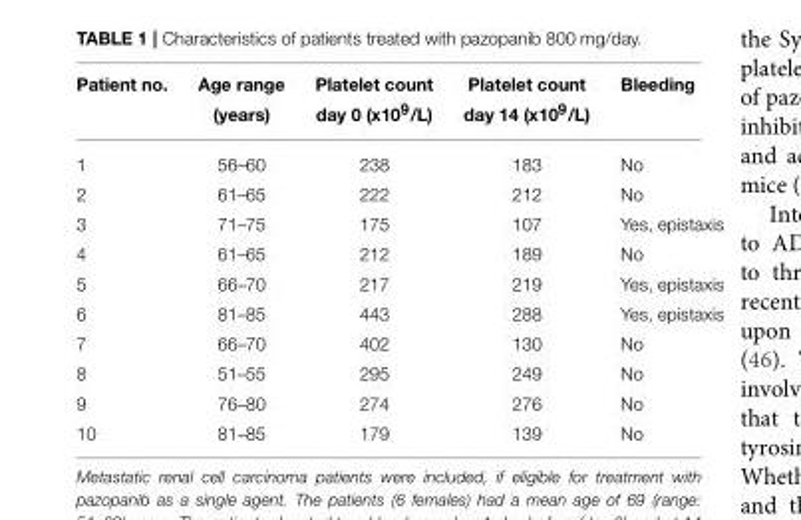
<table><thead><tr><td rowspan="2">Patient no.</td><td rowspan="2">Age range (years)</td><td rowspan="2">Platelet count day 0 (x10<sup>9</sup>/L)</td><td rowspan="2">Platelet count day 14 (x10<sup>9</sup>/L)</td><td rowspan="2">Bleeding</td></tr><tr></tr></thead><tbody><tr><td>1</td><td>56–60</td><td>238</td><td>183</td><td>No</td></tr><tr><td>2</td><td>61–65</td><td>222</td><td>212</td><td>No</td></tr><tr><td>3</td><td>71–75</td><td>175</td><td>107</td><td>Yes, epistaxis</td></tr><tr><td>4</td><td>61–65</td><td>212</td><td>189</td><td>No</td></tr><tr><td>5</td><td>66–70</td><td>217</td><td>219</td><td>Yes, epistaxis</td></tr><tr><td>6</td><td>81–85</td><td>443</td><td>288</td><td>Yes, epistaxis</td></tr><tr><td>7</td><td>66–70</td><td>402</td><td>130</td><td>No</td></tr><tr><td>8</td><td>51–55</td><td>295</td><td>249</td><td>No</td></tr><tr><td>9</td><td>76–80</td><td>274</td><td>276</td><td>No</td></tr><tr><td>10</td><td>81–85</td><td>179</td><td>139</td><td>No</td></tr></tbody></table>